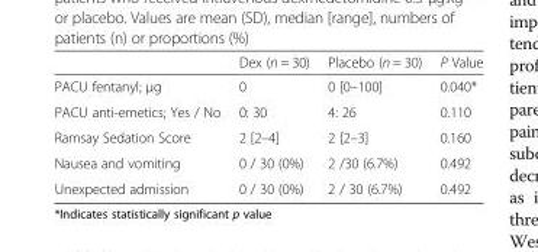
<table><thead><tr><td></td><td>Dex (n = 30)</td><td>Placebo (n = 30)</td><td>P Value</td></tr></thead><tbody><tr><td>PACU fentanyl; μg</td><td>0</td><td>0 [0–100]</td><td>0.040*</td></tr><tr><td>PACU anti-emetics; Yes / No</td><td>0: 30</td><td>4: 26</td><td>0.110</td></tr><tr><td>Ramsay Sedation Score</td><td>2 [2–4]</td><td>2 [2–3]</td><td>0.160</td></tr><tr><td>Nausea and vomiting</td><td>0 / 30 (0%)</td><td>2 /30 (6.7%)</td><td>0.492</td></tr><tr><td>Unexpected admission</td><td>0 / 30 (0%)</td><td>2 / 30 (6.7%)</td><td>0.492</td></tr></tbody></table>